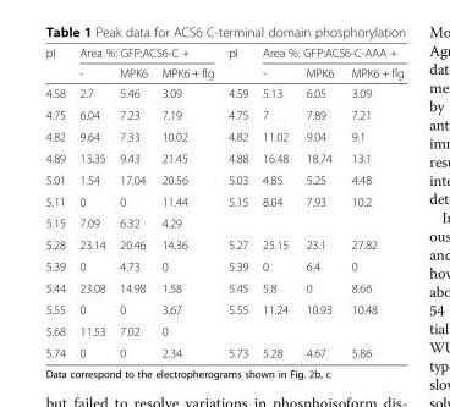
<table><thead><tr><td rowspan="2">pI</td><td colspan="3">Area %: GFP:ACS6-C +</td><td rowspan="2">pI</td><td colspan="3">Area %: GFP:ACS6-C-AAA +</td></tr><tr><td>-</td><td>MPK6</td><td>MPK6 + flg</td><td>-</td><td>MPK6</td><td>MPK6 + flg</td></tr></thead><tbody><tr><td>4.58</td><td>2.7</td><td>5.46</td><td>3.09</td><td>4.59</td><td>5.13</td><td>6.05</td><td>3.09</td></tr><tr><td>4.75</td><td>6.04</td><td>7.23</td><td>7.19</td><td>4.75</td><td>7</td><td>7.89</td><td>7.21</td></tr><tr><td>4.82</td><td>9.64</td><td>7.33</td><td>10.02</td><td>4.82</td><td>11.02</td><td>9.04</td><td>9.1</td></tr><tr><td>4.89</td><td>13.35</td><td>9.43</td><td>21.45</td><td>4.88</td><td>16.48</td><td>18.74</td><td>13.1</td></tr><tr><td>5.01</td><td>1.54</td><td>17.04</td><td>20.56</td><td>5.03</td><td>4.85</td><td>5.25</td><td>4.48</td></tr><tr><td>5.11</td><td>0</td><td>0</td><td>11.44</td><td>5.15</td><td>8.04</td><td>7.93</td><td>10.2</td></tr><tr><td>5.15</td><td>7.09</td><td>6.32</td><td>4.29</td><td></td><td></td><td></td><td></td></tr><tr><td>5.28</td><td>23.14</td><td>20.46</td><td>14.36</td><td>5.27</td><td>25.15</td><td>23.1</td><td>27.82</td></tr><tr><td>5.39</td><td>0</td><td>4.73</td><td>0</td><td>5.39</td><td>0</td><td>6.4</td><td>0</td></tr><tr><td>5.44</td><td>23.08</td><td>14.98</td><td>1.58</td><td>5.45</td><td>5.8</td><td>0</td><td>8.66</td></tr><tr><td>5.55</td><td>0</td><td>0</td><td>3.67</td><td>5.55</td><td>11.24</td><td>10.93</td><td>10.48</td></tr><tr><td>5.68</td><td>11.53</td><td>7.02</td><td>0</td><td></td><td></td><td></td><td></td></tr><tr><td>5.74</td><td>0</td><td>0</td><td>2.34</td><td>5.73</td><td>5.28</td><td>4.67</td><td>5.86</td></tr></tbody></table>